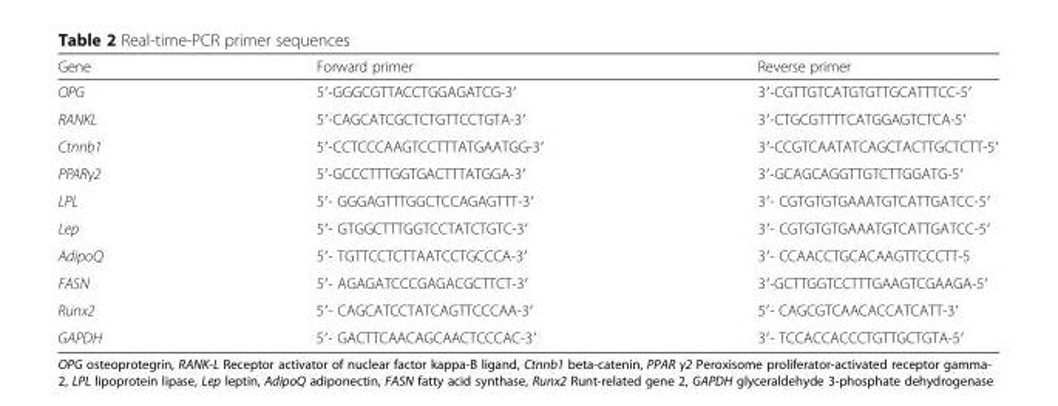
<table><thead><tr><td>Gene</td><td>Forward primer</td><td>Reverse primer</td></tr></thead><tbody><tr><td>OPG</td><td>5′-GGGCGTTACCTGGAGATCG-3′</td><td>3′-CGTTGTCATGTGTTGCATTTCC-5′</td></tr><tr><td>RANKL</td><td>5′-CAGCATCGCTCTGTTCCTGTA-3′</td><td>3′-CTGCGTTTTCATGGAGTCTCA-5′</td></tr><tr><td>Ctnnb1</td><td>5′-CCTCCCAAGTCCTTTATGAATGG-3′</td><td>3′-CCGTCAATATCAGCTACTTGCTCTT-5′</td></tr><tr><td>PPARγ2</td><td>5′-GCCCTTTGGTGACTTTATGGA-3′</td><td>3′-GCAGCAGGTTGTCTTGGATG-5′</td></tr><tr><td>LPL</td><td>5′- GGGAGTTTGGCTCCAGAGTTT-3′</td><td>3′- CGTGTGTGAAATGTCATTGATCC-5′</td></tr><tr><td>Lep</td><td>5′- GTGGCTTTGGTCCTATCTGTC-3′</td><td>3′- CGTGTGTGAAATGTCATTGATCC-5′</td></tr><tr><td>AdipoQ</td><td>5′- TGTTCCTCTTAATCCTGCCCA-3′</td><td>3′- CCAACCTGCACAAGTTCCCTT-5</td></tr><tr><td>FASN</td><td>5′- AGAGATCCCGAGACGCTTCT-3′</td><td>3′-GCTTGGTCCTTTGAAGTCGAAGA-5′</td></tr><tr><td>Runx2</td><td>5′- CAGCATCCTATCAGTTCCCAA-3′</td><td>5′- CAGCGTCAACACCATCATT-3′</td></tr><tr><td>GAPDH</td><td>5′- GACTTCAACAGCAACTCCCAC-3′</td><td>3′- TCCACCACCCTGTTGCTGTA-5′</td></tr></tbody></table>